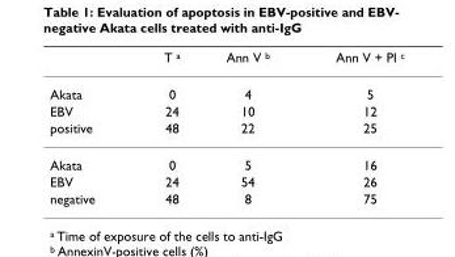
<table><thead><tr><td></td><td>T <sup>a</sup></td><td>Ann V <sup>b</sup></td><td>Ann V + PI <sup>c</sup></td></tr></thead><tbody><tr><td>Akata</td><td>0</td><td>4</td><td>5</td></tr><tr><td>EBV</td><td>24</td><td>10</td><td>12</td></tr><tr><td>positive</td><td>48</td><td>22</td><td>25</td></tr><tr><td>Akata</td><td>0</td><td>5</td><td>16</td></tr><tr><td>EBV</td><td>24</td><td>54</td><td>26</td></tr><tr><td>negative</td><td>48</td><td>8</td><td>75</td></tr></tbody></table>